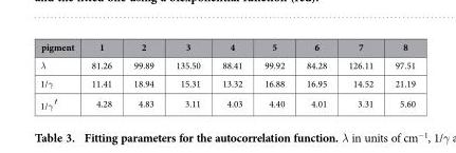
<table><thead><tr><td>pigment</td><td>1</td><td>2</td><td>3</td><td>4</td><td>5</td><td>6</td><td>7</td><td>8</td></tr></thead><tbody><tr><td>λ</td><td>81.26</td><td>99.89</td><td>135.50</td><td>88.41</td><td>99.92</td><td>84.28</td><td>126.11</td><td>97.51</td></tr><tr><td>1/γ</td><td>11.41</td><td>18.94</td><td>15.31</td><td>13.32</td><td>16.88</td><td>16.95</td><td>14.52</td><td>21.19</td></tr><tr><td>1/γ ′</td><td>4.28</td><td>4.83</td><td>3.11</td><td>4.03</td><td>4.40</td><td>4.01</td><td>3.31</td><td>5.60</td></tr></tbody></table>